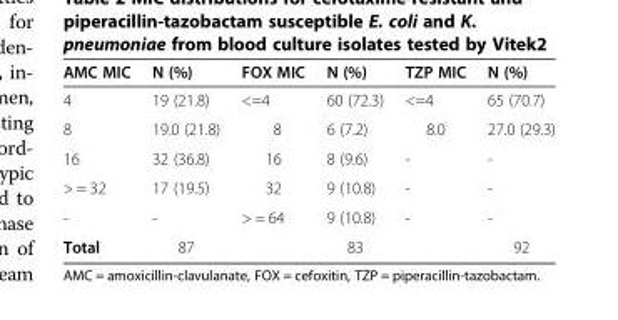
<table><thead><tr><td>AMC MIC</td><td>N (%)</td><td>FOX MIC</td><td>N (%)</td><td>TZP MIC</td><td>N (%)</td></tr></thead><tbody><tr><td>4</td><td>19 (21.8)</td><td>&lt;=4</td><td>60 (72.3)</td><td>&lt;=4</td><td>65 (70.7)</td></tr><tr><td>8</td><td>19.0 (21.8)</td><td>8</td><td>6 (7.2)</td><td>8.0</td><td>27.0 (29.3)</td></tr><tr><td>16</td><td>32 (36.8)</td><td>16</td><td>8 (9.6)</td><td>-</td><td>-</td></tr><tr><td>&gt; = 32</td><td>17 (19.5)</td><td>32</td><td>9 (10.8)</td><td>-</td><td>-</td></tr><tr><td>-</td><td>-</td><td>&gt; = 64</td><td>9 (10.8)</td><td>-</td><td>-</td></tr><tr><td>Total</td><td>87</td><td></td><td>83</td><td></td><td>92</td></tr></tbody></table>